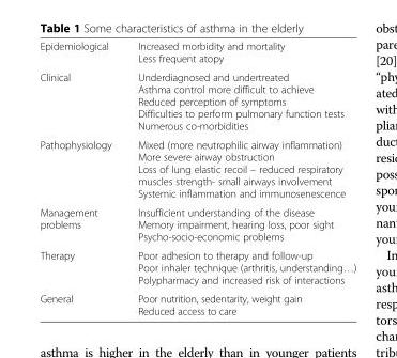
<table><tbody><tr><td>Epidemiological</td><td>Increased morbidity and mortality Less frequent atopy</td></tr><tr><td>Clinical</td><td>Underdiagnosed and undertreated Asthma control more difficult to achieve Reduced perception of symptoms Difficulties to perform pulmonary function tests Numerous co-morbidities</td></tr><tr><td>Pathophysiology</td><td>Mixed (more neutrophilic airway inflammation) More severe airway obstruction Loss of lung elastic recoil – reduced respiratory muscles strength- small airways involvement Systemic inflammation and immunosenescence</td></tr><tr><td>Management problems</td><td>Insufficient understanding of the disease Memory impairment, hearing loss, poor sight Psycho-socio-economic problems</td></tr><tr><td>Therapy</td><td>Poor adhesion to therapy and follow-up Poor inhaler technique (arthritis, understanding…) Polypharmacy and increased risk of interactions</td></tr><tr><td>General</td><td>Poor nutrition, sedentarity, weight gain Reduced access to care</td></tr></tbody></table>